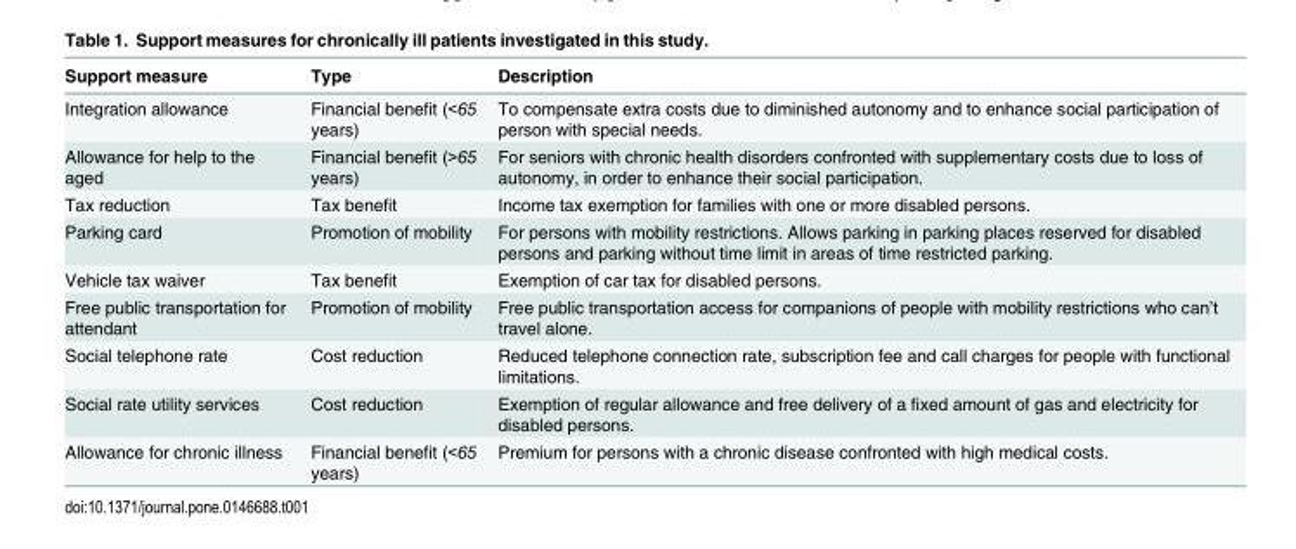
<table><thead><tr><td>Support measure</td><td>Type</td><td>Description</td></tr></thead><tbody><tr><td>Integration allowance</td><td>Financial benefit (&lt;65 years)</td><td>To compensate extra costs due to diminished autonomy and to enhance social participation of person with special needs.</td></tr><tr><td>Allowance for help to the aged</td><td>Financial benefit (&gt;65 years)</td><td>For seniors with chronic health disorders confronted with supplementary costs due to loss of autonomy, in order to enhance their social participation.</td></tr><tr><td>Tax reduction</td><td>Tax benefit</td><td>Income tax exemption for families with one or more disabled persons.</td></tr><tr><td>Parking card</td><td>Promotion of mobility</td><td>For persons with mobility restrictions. Allows parking in parking places reserved for disabled persons and parking without time limit in areas of time restricted parking.</td></tr><tr><td>Vehicle tax waiver</td><td>Tax benefit</td><td>Exemption of car tax for disabled persons.</td></tr><tr><td>Free public transportation for attendant</td><td>Promotion of mobility</td><td>Free public transportation access for companions of people with mobility restrictions who can’t travel alone.</td></tr><tr><td>Social telephone rate</td><td>Cost reduction</td><td>Reduced telephone connection rate, subscription fee and call charges for people with functional limitations.</td></tr><tr><td>Social rate utility services</td><td>Cost reduction</td><td>Exemption of regular allowance and free delivery of a fixed amount of gas and electricity for disabled persons.</td></tr><tr><td>Allowance for chronic illness</td><td>Financial benefit (&lt;65 years)</td><td>Premium for persons with a chronic disease confronted with high medical costs.</td></tr></tbody></table>